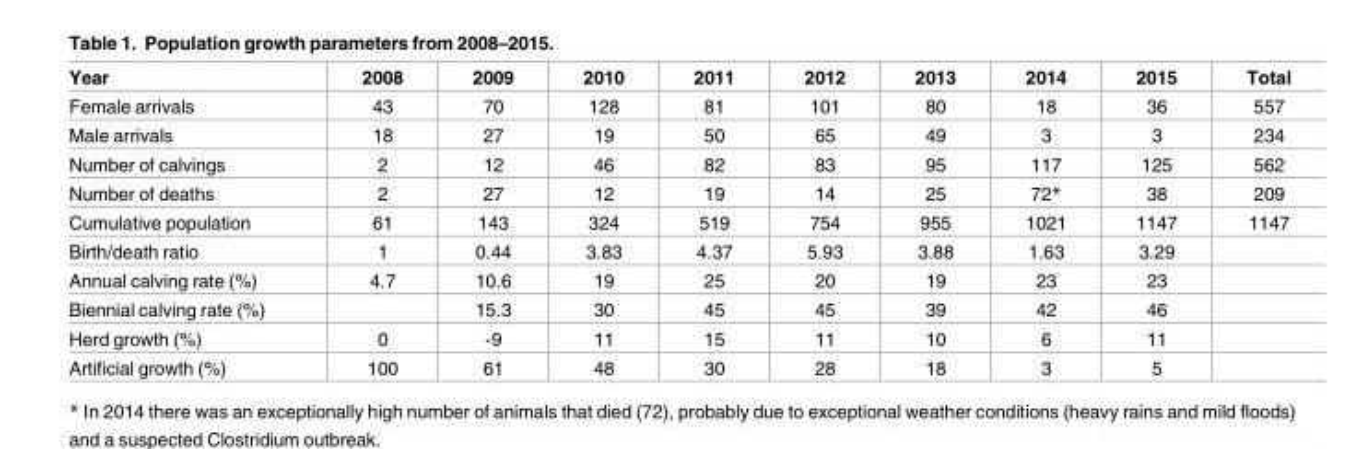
<table><thead><tr><td>Year</td><td>2008</td><td>2009</td><td>2010</td><td>2011</td><td>2012</td><td>2013</td><td>2014</td><td>2015</td><td>Total</td></tr></thead><tbody><tr><td>Female arrivals</td><td>43</td><td>70</td><td>128</td><td>81</td><td>101</td><td>80</td><td>18</td><td>36</td><td>557</td></tr><tr><td>Male arrivals</td><td>18</td><td>27</td><td>19</td><td>50</td><td>65</td><td>49</td><td>3</td><td>3</td><td>234</td></tr><tr><td>Number of calvings</td><td>2</td><td>12</td><td>46</td><td>82</td><td>83</td><td>95</td><td>117</td><td>125</td><td>562</td></tr><tr><td>Number of deaths</td><td>2</td><td>27</td><td>12</td><td>19</td><td>14</td><td>25</td><td>72*</td><td>38</td><td>209</td></tr><tr><td>Cumulative population</td><td>61</td><td>143</td><td>324</td><td>519</td><td>754</td><td>955</td><td>1021</td><td>1147</td><td>1147</td></tr><tr><td>Birth/death ratio</td><td>1</td><td>0.44</td><td>3.83</td><td>4.37</td><td>5.93</td><td>3.88</td><td>1.63</td><td>3.29</td><td></td></tr><tr><td>Annual calving rate (%)</td><td>4.7</td><td>10.6</td><td>19</td><td>25</td><td>20</td><td>19</td><td>23</td><td>23</td><td></td></tr><tr><td>Biennial calving rate (%)</td><td></td><td>15.3</td><td>30</td><td>45</td><td>45</td><td>39</td><td>42</td><td>46</td><td></td></tr><tr><td>Herd growth (%)</td><td>0</td><td>-9</td><td>11</td><td>15</td><td>11</td><td>10</td><td>6</td><td>11</td><td></td></tr><tr><td>Artificial growth (%)</td><td>100</td><td>61</td><td>48</td><td>30</td><td>28</td><td>18</td><td>3</td><td>5</td><td></td></tr></tbody></table>